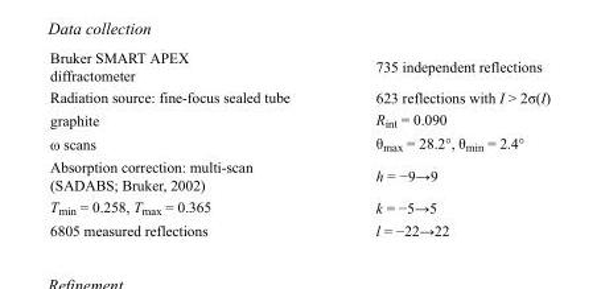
<table><tbody><tr><td>Bruker SMART APEX diffractometer</td><td>735 independent reflections</td></tr><tr><td>Radiation source: fine-focus sealed tube</td><td>623 reflections with I &gt; 2σ(I)</td></tr><tr><td>graphite</td><td>R<sub>int</sub> = 0.090</td></tr><tr><td>ω scans</td><td>θ<sub>max</sub> = 28.2°, θ<sub>min</sub> = 2.4°</td></tr><tr><td>Absorption correction: multi-scan (SADABS; Bruker, 2002)</td><td>h = −9→9</td></tr><tr><td>T<sub>min</sub> = 0.258, T<sub>max</sub> = 0.365</td><td>k = −5→5</td></tr><tr><td>6805 measured reflections</td><td>l = −22→22</td></tr></tbody></table>